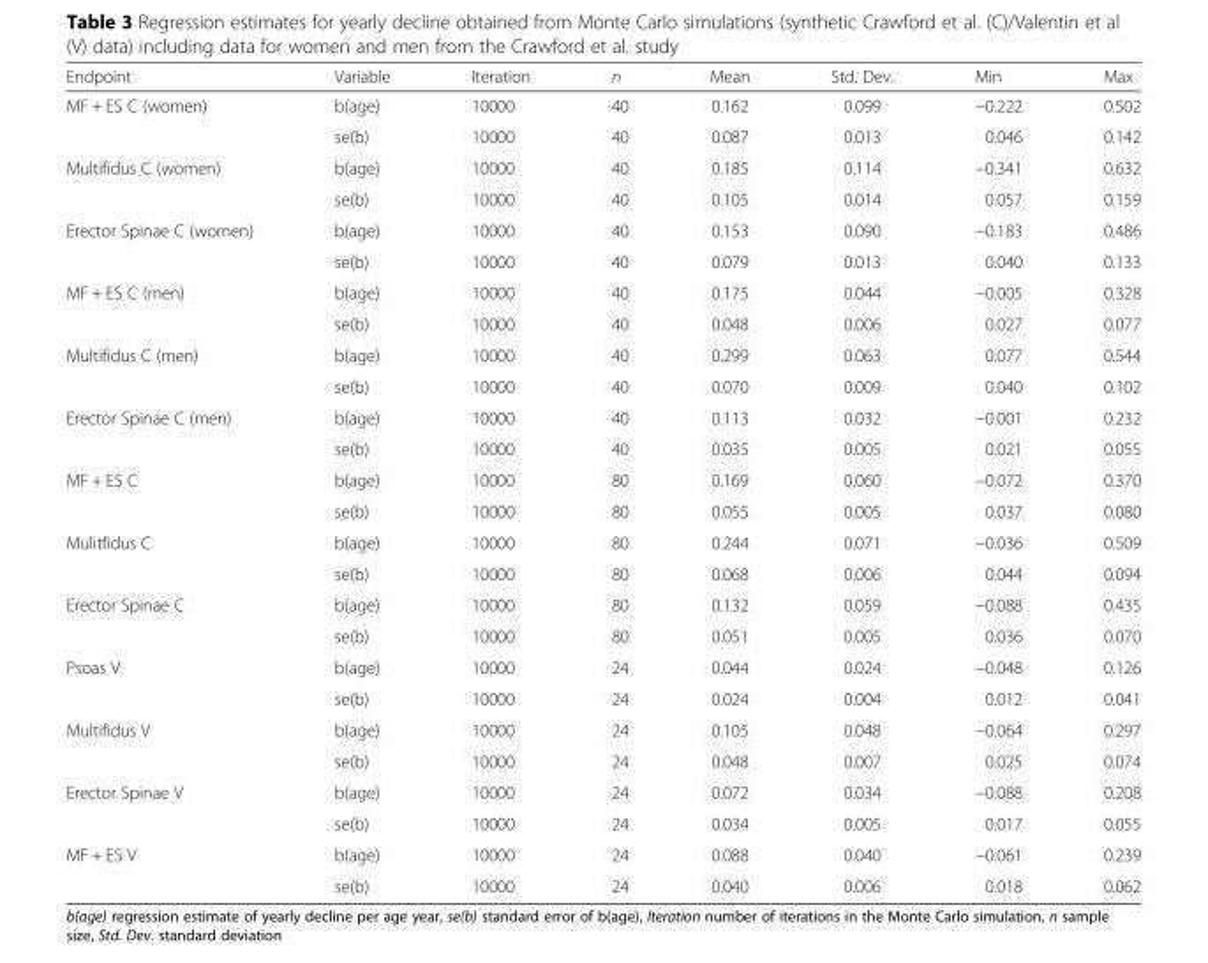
<table><thead><tr><td>Endpoint</td><td>Variable</td><td>Iteration</td><td>n</td><td>Mean</td><td>Std. Dev.</td><td>Min</td><td>Max</td></tr></thead><tbody><tr><td rowspan="2">MF + ES C (women)</td><td>b(age)</td><td>10000</td><td>40</td><td>0.162</td><td>0.099</td><td>−0.222</td><td>0.502</td></tr><tr><td>se(b)</td><td>10000</td><td>40</td><td>0.087</td><td>0.013</td><td>0.046</td><td>0.142</td></tr><tr><td rowspan="2">Multifidus C (women)</td><td>b(age)</td><td>10000</td><td>40</td><td>0.185</td><td>0.114</td><td>−0.341</td><td>0.632</td></tr><tr><td>se(b)</td><td>10000</td><td>40</td><td>0.105</td><td>0.014</td><td>0.057</td><td>0.159</td></tr><tr><td rowspan="2">Erector Spinae C (women)</td><td>b(age)</td><td>10000</td><td>40</td><td>0.153</td><td>0.090</td><td>−0.183</td><td>0.486</td></tr><tr><td>se(b)</td><td>10000</td><td>40</td><td>0.079</td><td>0.013</td><td>0.040</td><td>0.133</td></tr><tr><td rowspan="2">MF + ES C (men)</td><td>b(age)</td><td>10000</td><td>40</td><td>0.175</td><td>0.044</td><td>−0.005</td><td>0.328</td></tr><tr><td>se(b)</td><td>10000</td><td>40</td><td>0.048</td><td>0.006</td><td>0.027</td><td>0.077</td></tr><tr><td rowspan="2">Multifidus C (men)</td><td>b(age)</td><td>10000</td><td>40</td><td>0.299</td><td>0.063</td><td>0.077</td><td>0.544</td></tr><tr><td>se(b)</td><td>10000</td><td>40</td><td>0.070</td><td>0.009</td><td>0.040</td><td>0.102</td></tr><tr><td rowspan="2">Erector Spinae C (men)</td><td>b(age)</td><td>10000</td><td>40</td><td>0.113</td><td>0.032</td><td>−0.001</td><td>0.232</td></tr><tr><td>se(b)</td><td>10000</td><td>40</td><td>0.035</td><td>0.005</td><td>0.021</td><td>0.055</td></tr><tr><td rowspan="2">MF + ES C</td><td>b(age)</td><td>10000</td><td>80</td><td>0.169</td><td>0.060</td><td>−0.072</td><td>0.370</td></tr><tr><td>se(b)</td><td>10000</td><td>80</td><td>0.055</td><td>0.005</td><td>0.037</td><td>0.080</td></tr><tr><td rowspan="2">Mulitfidus C</td><td>b(age)</td><td>10000</td><td>80</td><td>0.244</td><td>0.071</td><td>−0.036</td><td>0.509</td></tr><tr><td>se(b)</td><td>10000</td><td>80</td><td>0.068</td><td>0.006</td><td>0.044</td><td>0.094</td></tr><tr><td rowspan="2">Erector Spinae C</td><td>b(age)</td><td>10000</td><td>80</td><td>0.132</td><td>0.059</td><td>−0.088</td><td>0.435</td></tr><tr><td>se(b)</td><td>10000</td><td>80</td><td>0.051</td><td>0.005</td><td>0.036</td><td>0.070</td></tr><tr><td rowspan="2">Psoas V</td><td>b(age)</td><td>10000</td><td>24</td><td>0.044</td><td>0.024</td><td>−0.048</td><td>0.126</td></tr><tr><td>se(b)</td><td>10000</td><td>24</td><td>0.024</td><td>0.004</td><td>0.012</td><td>0.041</td></tr><tr><td rowspan="2">Multifidus V</td><td>b(age)</td><td>10000</td><td>24</td><td>0.105</td><td>0.048</td><td>−0.064</td><td>0.297</td></tr><tr><td>se(b)</td><td>10000</td><td>24</td><td>0.048</td><td>0.007</td><td>0.025</td><td>0.074</td></tr><tr><td rowspan="2">Erector Spinae V</td><td>b(age)</td><td>10000</td><td>24</td><td>0.072</td><td>0.034</td><td>−0.088</td><td>0.208</td></tr><tr><td>se(b)</td><td>10000</td><td>24</td><td>0.034</td><td>0.005</td><td>0.017</td><td>0.055</td></tr><tr><td rowspan="2">MF + ES V</td><td>b(age)</td><td>10000</td><td>24</td><td>0.088</td><td>0.040</td><td>−0.061</td><td>0.239</td></tr><tr><td>se(b)</td><td>10000</td><td>24</td><td>0.040</td><td>0.006</td><td>0.018</td><td>0.062</td></tr></tbody></table>